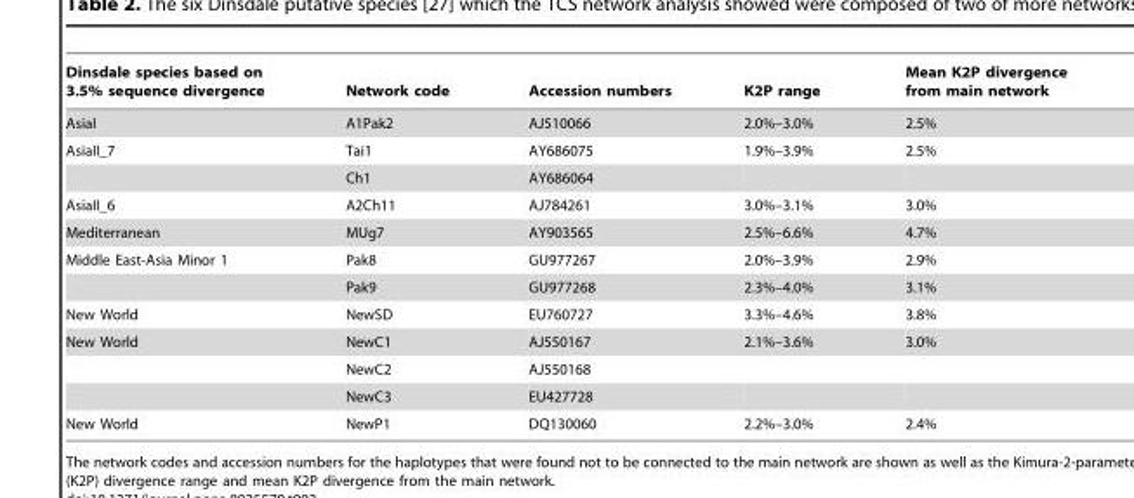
<table><thead><tr><td>Dinsdale species based on 3.5% sequence divergence</td><td>Network code</td><td>Accession numbers</td><td>K2P range</td><td>Mean K2P divergence from main network</td></tr></thead><tbody><tr><td>AsiaI</td><td>A1Pak2</td><td>AJ510066</td><td>2.0%–3.0%</td><td>2.5%</td></tr><tr><td rowspan="2">AsiaII_7</td><td>Tai1</td><td>AY686075</td><td>1.9%–3.9%</td><td>2.5%</td></tr><tr><td>Ch1</td><td>AY686064</td><td></td><td></td></tr><tr><td>AsiaII_6</td><td>A2Ch11</td><td>AJ784261</td><td>3.0%–3.1%</td><td>3.0%</td></tr><tr><td>Mediterranean</td><td>MUg7</td><td>AY903565</td><td>2.5%–6.6%</td><td>4.7%</td></tr><tr><td rowspan="2">Middle East-Asia Minor 1</td><td>Pak8</td><td>GU977267</td><td>2.0%–3.9%</td><td>2.9%</td></tr><tr><td>Pak9</td><td>GU977268</td><td>2.3%–4.0%</td><td>3.1%</td></tr><tr><td>New World</td><td>NewSD</td><td>EU760727</td><td>3.3%–4.6%</td><td>3.8%</td></tr><tr><td rowspan="3">New World</td><td>NewC1</td><td>AJ550167</td><td>2.1%–3.6%</td><td>3.0%</td></tr><tr><td>NewC2</td><td>AJ550168</td><td></td><td></td></tr><tr><td>NewC3</td><td>EU427728</td><td></td><td></td></tr><tr><td>New World</td><td>NewP1</td><td>DQ130060</td><td>2.2%–3.0%</td><td>2.4%</td></tr></tbody></table>